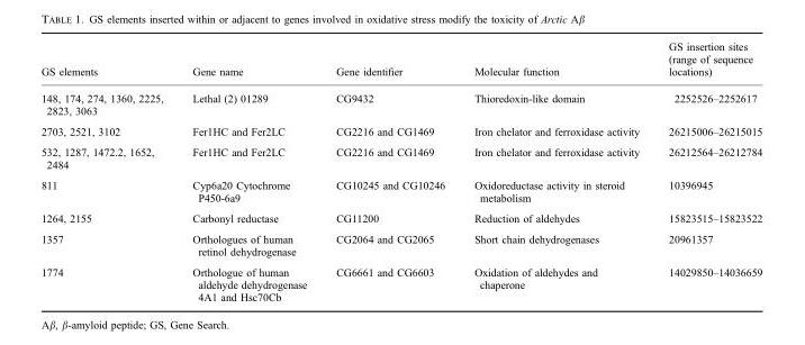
<table><thead><tr><td>GS elements</td><td>Gene name</td><td>Gene identifier</td><td>Molecular function</td><td>GS insertion sites (range of sequence locations)</td></tr></thead><tbody><tr><td>148, 174, 274, 1360, 2225, 2823, 3063</td><td>Lethal (2) 01289</td><td>CG9432</td><td>Thioredoxin-like domain</td><td>2252526–2252617</td></tr><tr><td>2703, 2521, 3102</td><td>Fer1HC and Fer2LC</td><td>CG2216 and CG1469</td><td>Iron chelator and ferroxidase activity</td><td>26215006–26215015</td></tr><tr><td>532, 1287, 1472.2, 1652, 2484</td><td>Fer1HC and Fer2LC</td><td>CG2216 and CG1469</td><td>Iron chelator and ferroxidase activity</td><td>26212564–26212784</td></tr><tr><td>811</td><td>Cyp6a20 Cytochrome P450-6a9</td><td>CG10245 and CG10246</td><td>Oxidoreductase activity in steroid metabolism</td><td>10396945</td></tr><tr><td>1264, 2155</td><td>Carbonyl reductase</td><td>CG11200</td><td>Reduction of aldehydes</td><td>15823515–15823522</td></tr><tr><td>1357</td><td>Orthologues of human retinol dehydrogenase</td><td>CG2064 and CG2065</td><td>Short chain dehydrogenases</td><td>20961357</td></tr><tr><td>1774</td><td>Orthologue of human aldehyde dehydrogenase 4A1 and Hsc70Cb</td><td>CG6661 and CG6603</td><td>Oxidation of aldehydes and chaperone</td><td>14029850–14036659</td></tr></tbody></table>